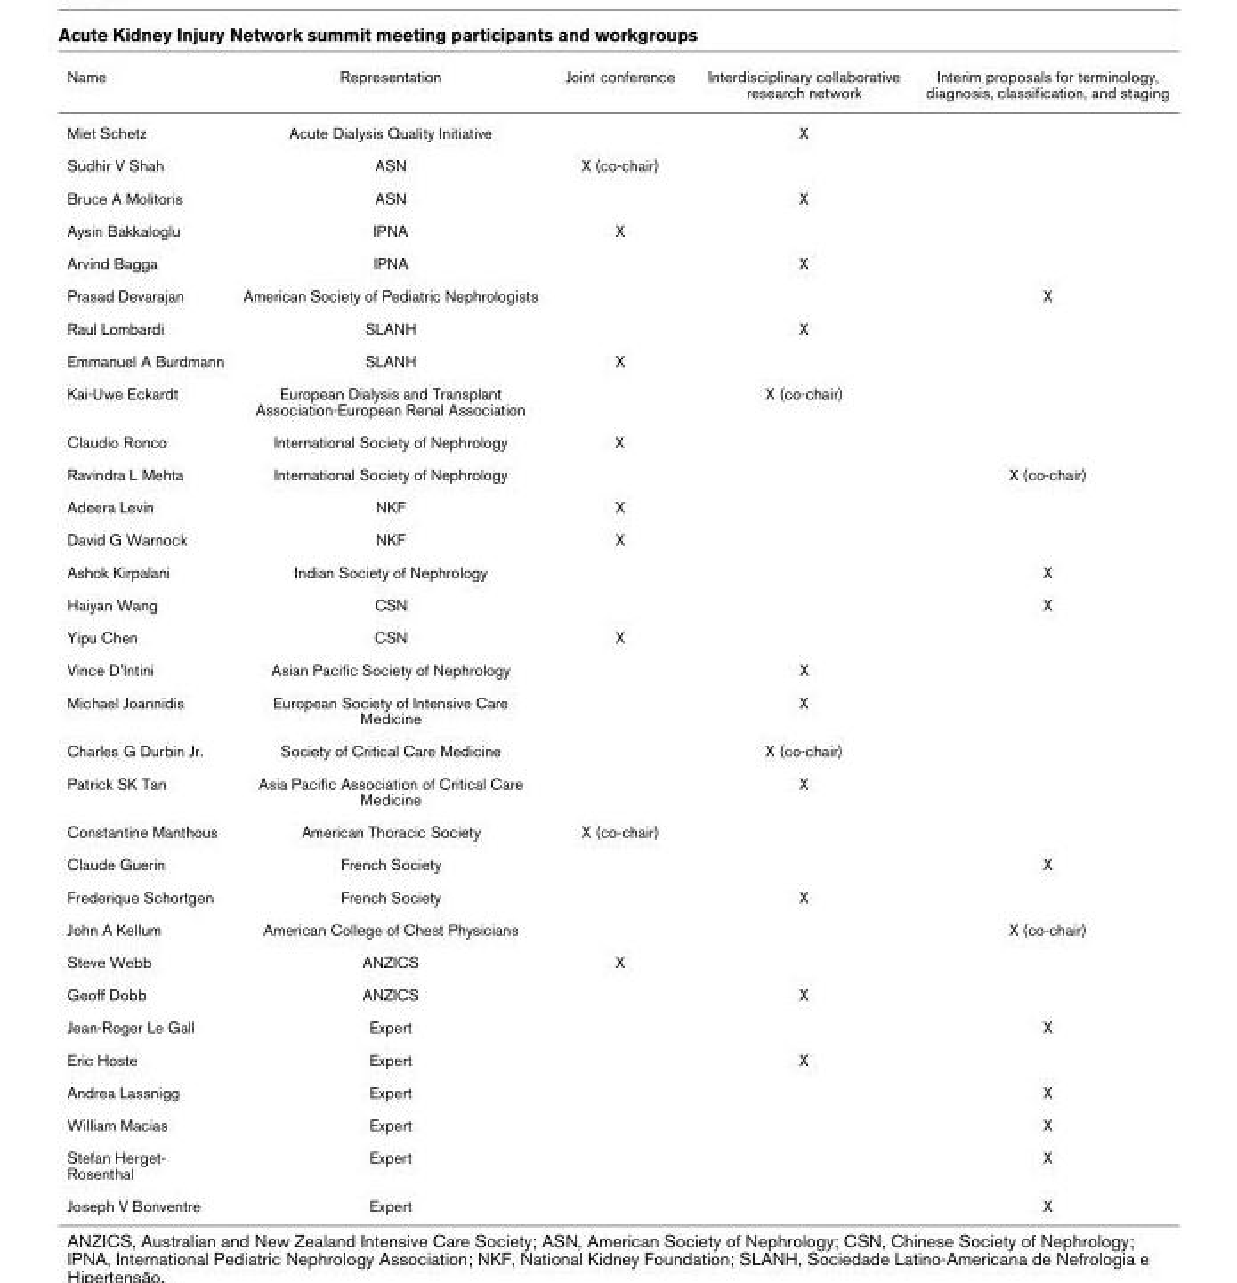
<table><thead><tr><td>Name</td><td>Representation</td><td>Joint conference</td><td>Interdisciplinary collaborative research network</td><td>Interim proposals for terminology, diagnosis, classification, and staging</td></tr></thead><tbody><tr><td>Miet Schetz</td><td>Acute Dialysis Quality Initiative</td><td></td><td>X</td><td></td></tr><tr><td>Sudhir V Shah</td><td>ASN</td><td>X (co-chair)</td><td></td><td></td></tr><tr><td>Bruce A Molitoris</td><td>ASN</td><td></td><td>X</td><td></td></tr><tr><td>Aysin Bakkaloglu</td><td>IPNA</td><td>X</td><td></td><td></td></tr><tr><td>Arvind Bagga</td><td>IPNA</td><td></td><td>X</td><td></td></tr><tr><td>Prasad Devarajan</td><td>American Society of Pediatric Nephrologists</td><td></td><td></td><td>X</td></tr><tr><td>Raul Lombardi</td><td>SLANH</td><td></td><td>X</td><td></td></tr><tr><td>Emmanuel A Burdmann</td><td>SLANH</td><td>X</td><td></td><td></td></tr><tr><td>Kai-Uwe Eckardt</td><td>European Dialysis and Transplant Association-European Renal Association</td><td></td><td>X (co-chair)</td><td></td></tr><tr><td>Claudio Ronco</td><td>International Society of Nephrology</td><td>X</td><td></td><td></td></tr><tr><td>Ravindra L Mehta</td><td>International Society of Nephrology</td><td></td><td></td><td>X (co-chair)</td></tr><tr><td>Adeera Levin</td><td>NKF</td><td>X</td><td></td><td></td></tr><tr><td>David G Warnock</td><td>NKF</td><td>X</td><td></td><td></td></tr><tr><td>Ashok Kirpalani</td><td>Indian Society of Nephrology</td><td></td><td></td><td>X</td></tr><tr><td>Haiyan Wang</td><td>CSN</td><td></td><td></td><td>X</td></tr><tr><td>Yipu Chen</td><td>CSN</td><td>X</td><td></td><td></td></tr><tr><td>Vince D&#x27;Intini</td><td>Asian Pacific Society of Nephrology</td><td></td><td>X</td><td></td></tr><tr><td>Michael Joannidis</td><td>European Society of Intensive Care Medicine</td><td></td><td>X</td><td></td></tr><tr><td>Charles G Durbin Jr.</td><td>Society of Critical Care Medicine</td><td></td><td>X (co-chair)</td><td></td></tr><tr><td>Patrick SK Tan</td><td>Asia Pacific Association of Critical Care Medicine</td><td></td><td>X</td><td></td></tr><tr><td>Constantine Manthous</td><td>American Thoracic Society</td><td>X (co-chair)</td><td></td><td></td></tr><tr><td>Claude Guerin</td><td>French Society</td><td></td><td></td><td>X</td></tr><tr><td>Frederique Schortgen</td><td>French Society</td><td></td><td>X</td><td></td></tr><tr><td>John A Kellum</td><td>American College of Chest Physicians</td><td></td><td></td><td>X (co-chair)</td></tr><tr><td>Steve Webb</td><td>ANZICS</td><td>X</td><td></td><td></td></tr><tr><td>Geoff Dobb</td><td>ANZICS</td><td></td><td>X</td><td></td></tr><tr><td>Jean-Roger Le Gall</td><td>Expert</td><td></td><td></td><td>X</td></tr><tr><td>Eric Hoste</td><td>Expert</td><td></td><td>X</td><td></td></tr><tr><td>Andrea Lassnigg</td><td>Expert</td><td></td><td></td><td>X</td></tr><tr><td>William Macias</td><td>Expert</td><td></td><td></td><td>X</td></tr><tr><td>Stefan Herget- Rosenthal</td><td>Expert</td><td></td><td></td><td>X</td></tr><tr><td>Joseph V Bonventre</td><td>Expert</td><td></td><td></td><td>X</td></tr></tbody></table>